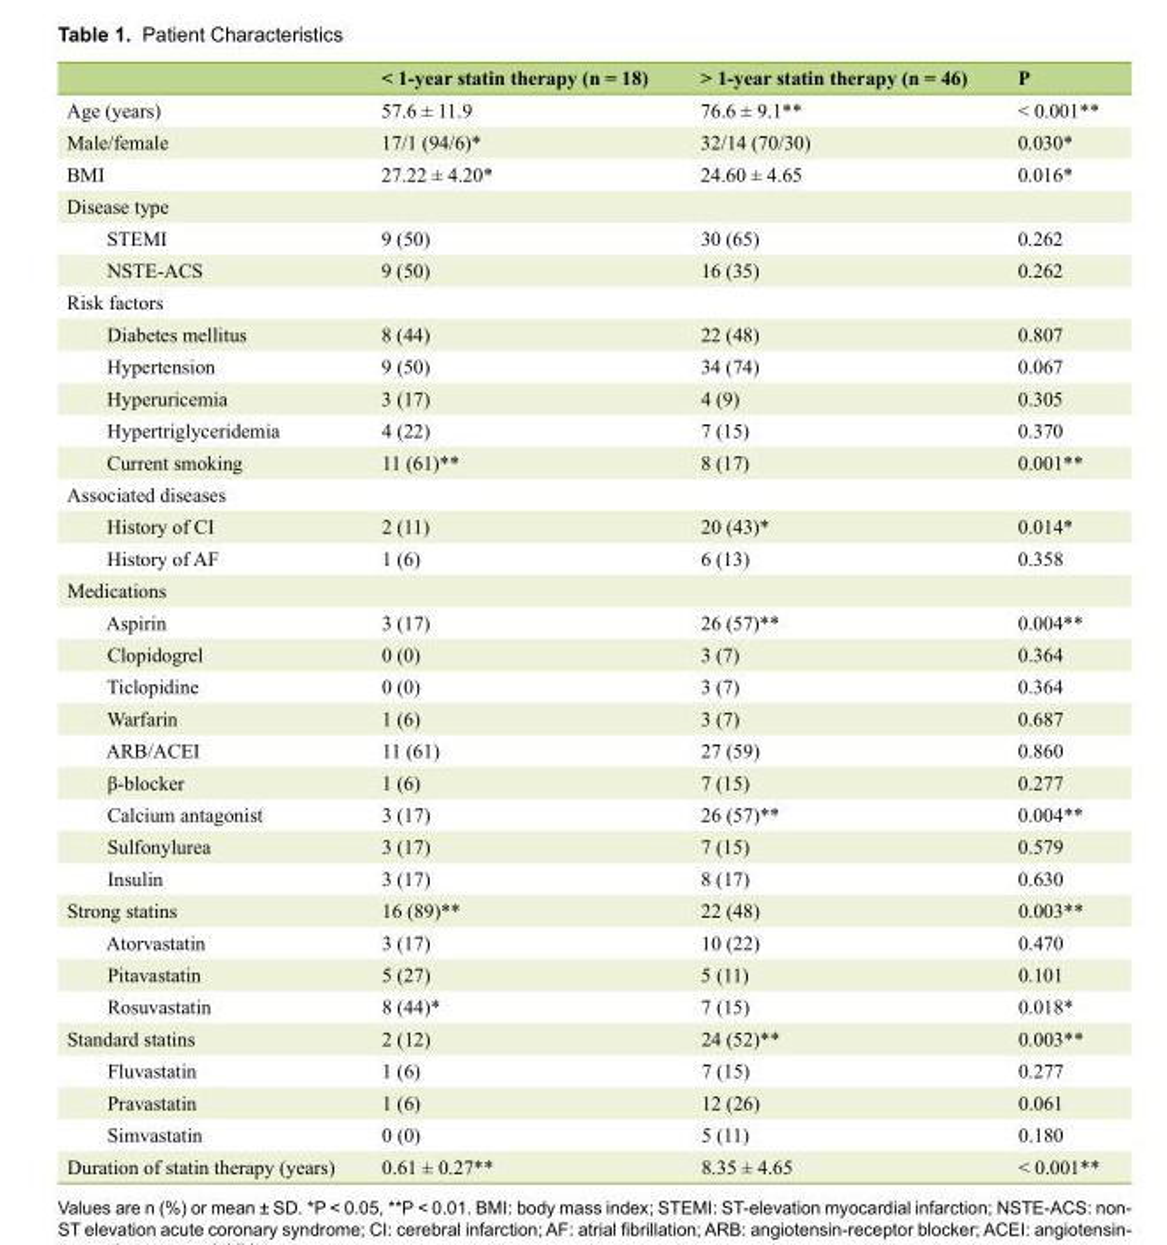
<table><thead><tr><td></td><td>&lt; 1-year statin therapy (n = 18)</td><td>&gt; 1-year statin therapy (n = 46)</td><td>P</td></tr></thead><tbody><tr><td>Age (years)</td><td>57.6 ± 11.9</td><td>76.6 ± 9.1**</td><td>&lt; 0.001**</td></tr><tr><td>Male/female</td><td>17/1 (94/6)*</td><td>32/14 (70/30)</td><td>0.030*</td></tr><tr><td>BMI</td><td>27.22 ± 4.20*</td><td>24.60 ± 4.65</td><td>0.016*</td></tr><tr><td colspan="4">Disease type</td></tr><tr><td>STEMI</td><td>9 (50)</td><td>30 (65)</td><td>0.262</td></tr><tr><td>NSTE-ACS</td><td>9 (50)</td><td>16 (35)</td><td>0.262</td></tr><tr><td colspan="4">Risk factors</td></tr><tr><td>Diabetes mellitus</td><td>8 (44)</td><td>22 (48)</td><td>0.807</td></tr><tr><td>Hypertension</td><td>9 (50)</td><td>34 (74)</td><td>0.067</td></tr><tr><td>Hyperuricemia</td><td>3 (17)</td><td>4 (9)</td><td>0.305</td></tr><tr><td>Hypertriglyceridemia</td><td>4 (22)</td><td>7 (15)</td><td>0.370</td></tr><tr><td>Current smoking</td><td>11 (61)**</td><td>8 (17)</td><td>0.001**</td></tr><tr><td colspan="4">Associated diseases</td></tr><tr><td>History of CI</td><td>2 (11)</td><td>20 (43)*</td><td>0.014*</td></tr><tr><td>History of AF</td><td>1 (6)</td><td>6 (13)</td><td>0.358</td></tr><tr><td colspan="4">Medications</td></tr><tr><td>Aspirin</td><td>3 (17)</td><td>26 (57)**</td><td>0.004**</td></tr><tr><td>Clopidogrel</td><td>0 (0)</td><td>3 (7)</td><td>0.364</td></tr><tr><td>Ticlopidine</td><td>0 (0)</td><td>3 (7)</td><td>0.364</td></tr><tr><td>Warfarin</td><td>1 (6)</td><td>3 (7)</td><td>0.687</td></tr><tr><td>ARB/ACEI</td><td>11 (61)</td><td>27 (59)</td><td>0.860</td></tr><tr><td>β-blocker</td><td>1 (6)</td><td>7 (15)</td><td>0.277</td></tr><tr><td>Calcium antagonist</td><td>3 (17)</td><td>26 (57)**</td><td>0.004**</td></tr><tr><td>Sulfonylurea</td><td>3 (17)</td><td>7 (15)</td><td>0.579</td></tr><tr><td>Insulin</td><td>3 (17)</td><td>8 (17)</td><td>0.630</td></tr><tr><td>Strong statins</td><td>16 (89)**</td><td>22 (48)</td><td>0.003**</td></tr><tr><td>Atorvastatin</td><td>3 (17)</td><td>10 (22)</td><td>0.470</td></tr><tr><td>Pitavastatin</td><td>5 (27)</td><td>5 (11)</td><td>0.101</td></tr><tr><td>Rosuvastatin</td><td>8 (44)*</td><td>7 (15)</td><td>0.018*</td></tr><tr><td>Standard statins</td><td>2 (12)</td><td>24 (52)**</td><td>0.003**</td></tr><tr><td>Fluvastatin</td><td>1 (6)</td><td>7 (15)</td><td>0.277</td></tr><tr><td>Pravastatin</td><td>1 (6)</td><td>12 (26)</td><td>0.061</td></tr><tr><td>Simvastatin</td><td>0 (0)</td><td>5 (11)</td><td>0.180</td></tr><tr><td>Duration of statin therapy (years)</td><td>0.61 ± 0.27**</td><td>8.35 ± 4.65</td><td>&lt; 0.001**</td></tr></tbody></table>